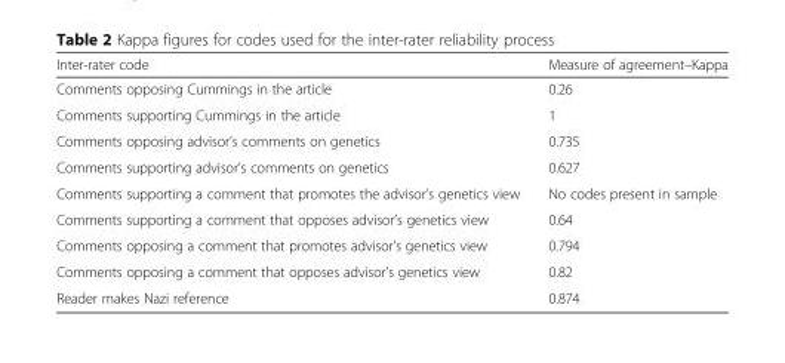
<table><thead><tr><td>Inter-rater code</td><td>Measure of agreement–Kappa</td></tr></thead><tbody><tr><td>Comments opposing Cummings in the article</td><td>0.26</td></tr><tr><td>Comments supporting Cummings in the article</td><td>1</td></tr><tr><td>Comments opposing advisor’s comments on genetics</td><td>0.735</td></tr><tr><td>Comments supporting advisor’s comments on genetics</td><td>0.627</td></tr><tr><td>Comments supporting a comment that promotes the advisor’s genetics view</td><td>No codes present in sample</td></tr><tr><td>Comments supporting a comment that opposes advisor’s genetics view</td><td>0.64</td></tr><tr><td>Comments opposing a comment that promotes advisor’s genetics view</td><td>0.794</td></tr><tr><td>Comments opposing a comment that opposes advisor’s genetics view</td><td>0.82</td></tr><tr><td>Reader makes Nazi reference</td><td>0.874</td></tr></tbody></table>